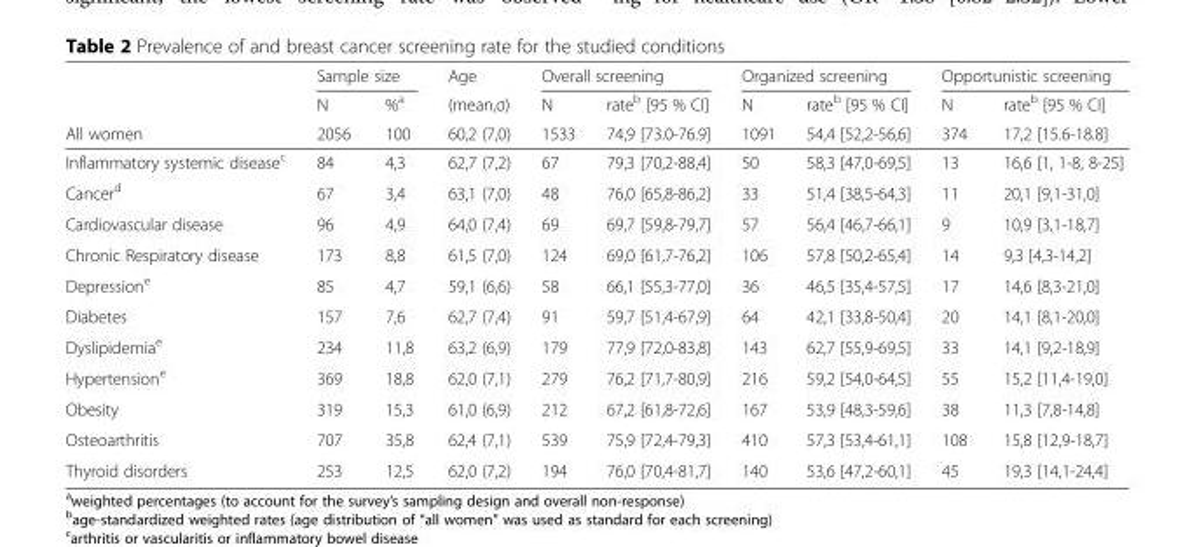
<table><thead><tr><td rowspan="3">All women</td><td colspan="2">Sample size</td><td rowspan="3">Age (mean,σ) 60,2 (7,0)</td><td colspan="2">Overall screening</td><td colspan="2">Organized screening</td><td colspan="2">Opportunistic screening</td></tr><tr><td rowspan="2">N 2056</td><td rowspan="2">%<sup>a</sup> 100</td><td rowspan="2">N 1533</td><td rowspan="2">rate<sup>b</sup> [95 % CI] 74,9 [73.0-76.9]</td><td rowspan="2">N 1091</td><td rowspan="2">rate<sup>b</sup> [95 % CI] 54,4 [52,2-56,6]</td><td rowspan="2">N 374</td><td rowspan="2">rate<sup>b</sup> [95 % CI] 17,2 [15.6-18.8]</td></tr><tr></tr></thead><tbody><tr><td>Inflammatory systemic disease<sup>c</sup></td><td>84</td><td>4,3</td><td>62,7 (7,2)</td><td>67</td><td>79,3 [70,2-88,4]</td><td>50</td><td>58,3 [47,0-69,5]</td><td>13</td><td>16,6 [1, 1-8, 8-25]</td></tr><tr><td>Cancer<sup>d</sup></td><td>67</td><td>3,4</td><td>63,1 (7,0)</td><td>48</td><td>76,0 [65,8-86,2]</td><td>33</td><td>51,4 [38,5-64,3]</td><td>11</td><td>20,1 [9,1-31,0]</td></tr><tr><td>Cardiovascular disease</td><td>96</td><td>4,9</td><td>64,0 (7,4)</td><td>69</td><td>69,7 [59,8-79,7]</td><td>57</td><td>56,4 [46,7-66,1]</td><td>9</td><td>10,9 [3,1-18,7]</td></tr><tr><td>Chronic Respiratory disease</td><td>173</td><td>8,8</td><td>61,5 (7,0)</td><td>124</td><td>69,0 [61,7-76,2]</td><td>106</td><td>57,8 [50,2-65,4]</td><td>14</td><td>9,3 [4,3-14,2]</td></tr><tr><td>Depression<sup>e</sup></td><td>85</td><td>4,7</td><td>59,1 (6,6)</td><td>58</td><td>66,1 [55,3-77,0]</td><td>36</td><td>46,5 [35,4-57,5]</td><td>17</td><td>14,6 [8,3-21,0]</td></tr><tr><td>Diabetes</td><td>157</td><td>7,6</td><td>62,7 (7,4)</td><td>91</td><td>59,7 [51,4-67,9]</td><td>64</td><td>42,1 [33,8-50,4]</td><td>20</td><td>14,1 [8,1-20,0]</td></tr><tr><td>Dyslipidemia<sup>e</sup></td><td>234</td><td>11,8</td><td>63,2 (6,9)</td><td>179</td><td>77,9 [72,0-83,8]</td><td>143</td><td>62,7 [55,9-69,5]</td><td>33</td><td>14,1 [9,2-18,9]</td></tr><tr><td>Hypertension<sup>e</sup></td><td>369</td><td>18,8</td><td>62,0 (7,1)</td><td>279</td><td>76,2 [71,7-80,9]</td><td>216</td><td>59,2 [54,0-64,5]</td><td>55</td><td>15,2 [11,4-19,0]</td></tr><tr><td>Obesity</td><td>319</td><td>15,3</td><td>61,0 (6,9)</td><td>212</td><td>67,2 [61,8-72,6]</td><td>167</td><td>53,9 [48,3-59,6]</td><td>38</td><td>11,3 [7,8-14,8]</td></tr><tr><td>Osteoarthritis</td><td>707</td><td>35,8</td><td>62,4 (7,1)</td><td>539</td><td>75,9 [72,4-79,3]</td><td>410</td><td>57,3 [53,4-61,1]</td><td>108</td><td>15,8 [12,9-18,7]</td></tr><tr><td>Thyroid disorders</td><td>253</td><td>12,5</td><td>62,0 (7,2)</td><td>194</td><td>76,0 [70,4-81,7]</td><td>140</td><td>53,6 [47,2-60,1]</td><td>45</td><td>19,3 [14,1-24,4]</td></tr></tbody></table>